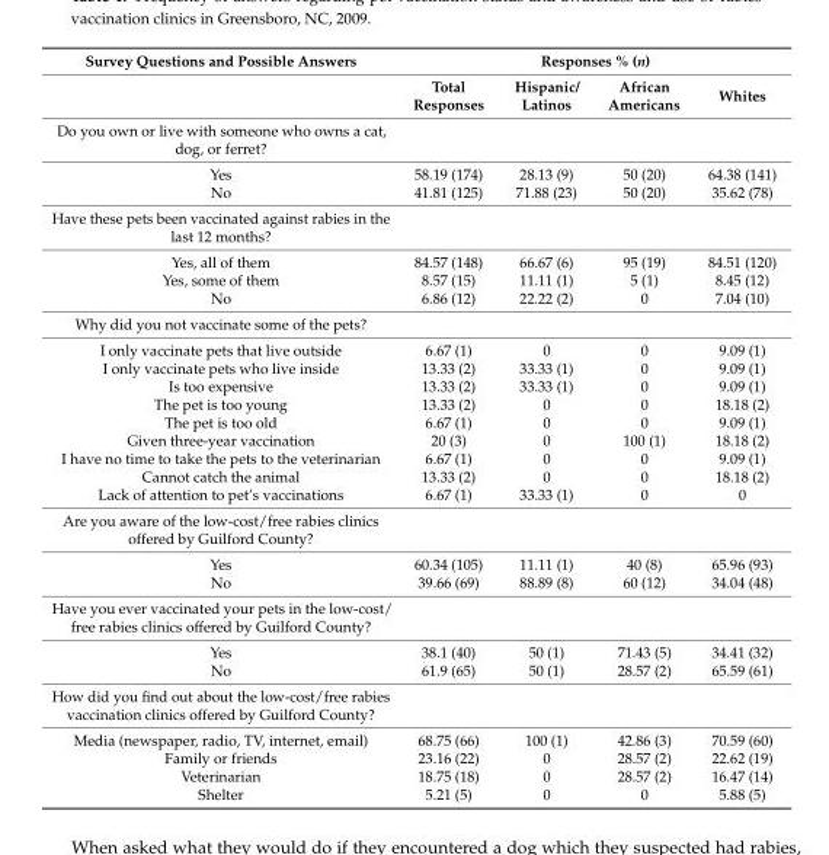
<table><thead><tr><td rowspan="2">Survey Questions and Possible Answers</td><td colspan="4">Responses % (n)</td></tr><tr><td>Total Responses</td><td>Hispanic/ Latinos</td><td>African Americans</td><td>Whites</td></tr></thead><tbody><tr><td colspan="5">Do you own or live with someone who owns a cat, dog, or ferret?</td></tr><tr><td>Yes</td><td>58.19 (174)</td><td>28.13 (9)</td><td>50 (20)</td><td>64.38 (141)</td></tr><tr><td>No</td><td>41.81 (125)</td><td>71.88 (23)</td><td>50 (20)</td><td>35.62 (78)</td></tr><tr><td colspan="5">Have these pets been vaccinated against rabies in the last 12 months?</td></tr><tr><td>Yes, all of them</td><td>84.57 (148)</td><td>66.67 (6)</td><td>95 (19)</td><td>84.51 (120)</td></tr><tr><td>Yes, some of them</td><td>8.57 (15)</td><td>11.11 (1)</td><td>5 (1)</td><td>8.45 (12)</td></tr><tr><td>No</td><td>6.86 (12)</td><td>22.22 (2)</td><td>0</td><td>7.04 (10)</td></tr><tr><td colspan="5">Why did you not vaccinate some of the pets?</td></tr><tr><td>I only vaccinate pets that live outside</td><td>6.67 (1)</td><td>0</td><td>0</td><td>9.09 (1)</td></tr><tr><td>I only vaccinate pets who live inside</td><td>13.33 (2)</td><td>33.33 (1)</td><td>0</td><td>9.09 (1)</td></tr><tr><td>Is too expensive</td><td>13.33 (2)</td><td>33.33 (1)</td><td>0</td><td>9.09 (1)</td></tr><tr><td>The pet is too young</td><td>13.33 (2)</td><td>0</td><td>0</td><td>18.18 (2)</td></tr><tr><td>The pet is too old</td><td>6.67 (1)</td><td>0</td><td>0</td><td>9.09 (1)</td></tr><tr><td>Given three-year vaccination</td><td>20 (3)</td><td>0</td><td>100 (1)</td><td>18.18 (2)</td></tr><tr><td>I have no time to take the pets to the veterinarian</td><td>6.67 (1)</td><td>0</td><td>0</td><td>9.09 (1)</td></tr><tr><td>Cannot catch the animal</td><td>13.33 (2)</td><td>0</td><td>0</td><td>18.18 (2)</td></tr><tr><td>Lack of attention to pet’s vaccinations</td><td>6.67 (1)</td><td>33.33 (1)</td><td>0</td><td>0</td></tr><tr><td colspan="5">Are you aware of the low-cost/free rabies clinics offered by Guilford County?</td></tr><tr><td>Yes</td><td>60.34 (105)</td><td>11.11 (1)</td><td>40 (8)</td><td>65.96 (93)</td></tr><tr><td>No</td><td>39.66 (69)</td><td>88.89 (8)</td><td>60 (12)</td><td>34.04 (48)</td></tr><tr><td colspan="5">Have you ever vaccinated your pets in the low-cost/ free rabies clinics offered by Guilford County?</td></tr><tr><td>Yes</td><td>38.1 (40)</td><td>50 (1)</td><td>71.43 (5)</td><td>34.41 (32)</td></tr><tr><td>No</td><td>61.9 (65)</td><td>50 (1)</td><td>28.57 (2)</td><td>65.59 (61)</td></tr><tr><td colspan="5">How did you find out about the low-cost/free rabies vaccination clinics offered by Guilford County?</td></tr><tr><td>Media (newspaper, radio, TV, internet, email)</td><td>68.75 (66)</td><td>100 (1)</td><td>42.86 (3)</td><td>70.59 (60)</td></tr><tr><td>Family or friends</td><td>23.16 (22)</td><td>0</td><td>28.57 (2)</td><td>22.62 (19)</td></tr><tr><td>Veterinarian</td><td>18.75 (18)</td><td>0</td><td>28.57 (2)</td><td>16.47 (14)</td></tr><tr><td>Shelter</td><td>5.21 (5)</td><td>0</td><td>0</td><td>5.88 (5)</td></tr></tbody></table>